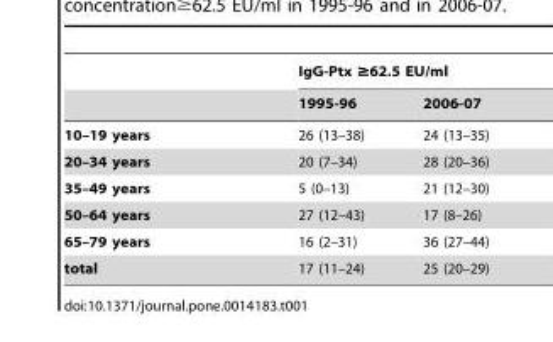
<table><thead><tr><td rowspan="2"></td><td colspan="2">IgG-Ptx ≥62.5 EU/ml</td></tr><tr><td>1995-96</td><td>2006-07</td></tr></thead><tbody><tr><td>10–19 years</td><td>26 (13–38)</td><td>24 (13–35)</td></tr><tr><td>20–34 years</td><td>20 (7–34)</td><td>28 (20–36)</td></tr><tr><td>35–49 years</td><td>5 (0–13)</td><td>21 (12–30)</td></tr><tr><td>50–64 years</td><td>27 (12–43)</td><td>17 (8–26)</td></tr><tr><td>65–79 years</td><td>16 (2–31)</td><td>36 (27–44)</td></tr><tr><td>total</td><td>17 (11–24)</td><td>25 (20–29)</td></tr></tbody></table>